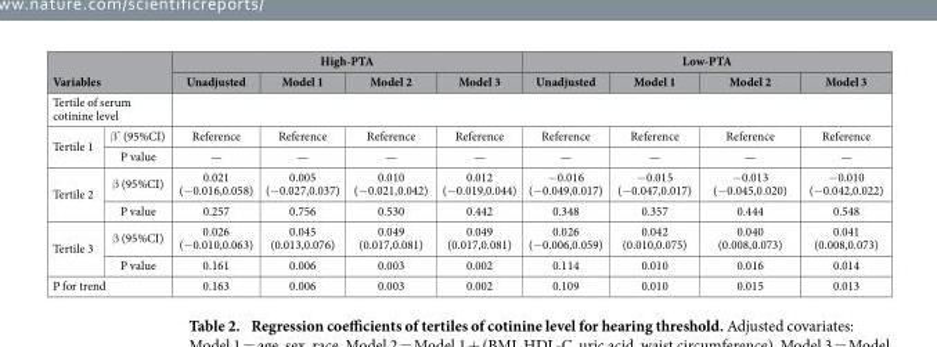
<table><thead><tr><td></td><td></td><td colspan="4">High-PTA</td><td colspan="4">Low-PTA</td></tr><tr><td colspan="2">Variables</td><td>Unadjusted</td><td>Model 1</td><td>Model 2</td><td>Model 3</td><td>Unadjusted</td><td>Model 1</td><td>Model 2</td><td>Model 3</td></tr></thead><tbody><tr><td colspan="10">Tertile of serum cotinine level</td></tr><tr><td rowspan="2">Tertile 1</td><td>β * (95%CI)</td><td>Reference</td><td>Reference</td><td>Reference</td><td>Reference</td><td>Reference</td><td>Reference</td><td>Reference</td><td>Reference</td></tr><tr><td>P value</td><td>—</td><td>—</td><td>—</td><td>—</td><td>—</td><td>—</td><td>—</td><td>—</td></tr><tr><td rowspan="2">Tertile 2</td><td>β (95%CI)</td><td>0.021 (− 0.016,0.058)</td><td>0.005 (− 0.027,0.037)</td><td>0.010 (− 0.021,0.042)</td><td>0.012 (− 0.019,0.044)</td><td>− 0.016 (− 0.049,0.017)</td><td>− 0.015 (− 0.047,0.017)</td><td>− 0.013 (− 0.045,0.020)</td><td>− 0.010 (− 0.042,0.022)</td></tr><tr><td>P value</td><td>0.257</td><td>0.756</td><td>0.530</td><td>0.442</td><td>0.348</td><td>0.357</td><td>0.444</td><td>0.548</td></tr><tr><td rowspan="2">Tertile 3</td><td>β (95%CI)</td><td>0.026 (− 0.010,0.063)</td><td>0.045 (0.013,0.076)</td><td>0.049 (0.017,0.081)</td><td>0.049 (0.017,0.081)</td><td>0.026 (− 0.006,0.059)</td><td>0.042 (0.010,0.075)</td><td>0.040 (0.008,0.073)</td><td>0.041 (0.008,0.073)</td></tr><tr><td>P value</td><td>0.161</td><td>0.006</td><td>0.003</td><td>0.002</td><td>0.114</td><td>0.010</td><td>0.016</td><td>0.014</td></tr><tr><td colspan="2">P for trend</td><td>0.163</td><td>0.006</td><td>0.003</td><td>0.002</td><td>0.109</td><td>0.010</td><td>0.015</td><td>0.013</td></tr></tbody></table>